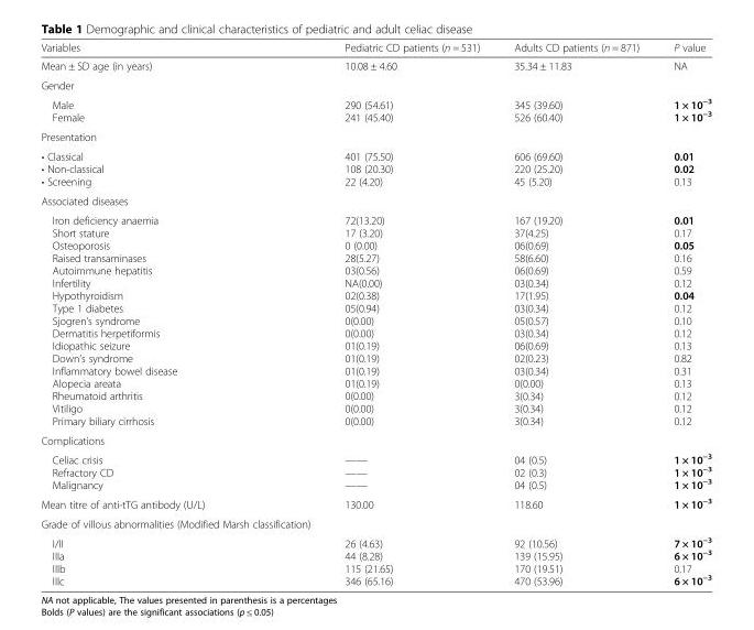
<table><thead><tr><td>Variables</td><td>Pediatric CD patients (n = 531)</td><td>Adults CD patients (n = 871)</td><td>P value</td></tr></thead><tbody><tr><td>Mean ± SD age (in years)</td><td>10.08 ± 4.60</td><td>35.34 ± 11.83</td><td>NA</td></tr><tr><td colspan="4">Gender</td></tr><tr><td>Male Female</td><td>290 (54.61) 241 (45.40)</td><td>345 (39.60) 526 (60.40)</td><td>1 × 10<sup>−3</sup> 1 × 10<sup>−3</sup></td></tr><tr><td colspan="4">Presentation</td></tr><tr><td>• Classical • Non-classical • Screening</td><td>401 (75.50) 108 (20.30) 22 (4.20)</td><td>606 (69.60) 220 (25.20) 45 (5.20)</td><td>0.01 0.02 0.13</td></tr><tr><td colspan="4">Associated diseases</td></tr><tr><td>Iron deficiency anaemia Short stature Osteoporosis Raised transaminases Autoimmune hepatitis Infertility Hypothyroidism Type 1 diabetes Sjogren’s syndrome Dermatitis herpetiformis Idiopathic seizure Down’s syndrome Inflammatory bowel disease Alopecia areata Rheumatoid arthritis Vitiligo Primary biliary cirrhosis</td><td>72(13.20) 17 (3.20) 0 (0.00) 28(5.27) 03(0.56) NA(0.00) 02(0.38) 05(0.94) 0(0.00) 0(0.00) 01(0.19) 01(0.19) 01(0.19) 01(0.19) 0(0.00) 0(0.00) 0(0.00)</td><td>167 (19.20) 37(4.25) 06(0.69) 58(6.60) 06(0.69) 03(0.34) 17(1.95) 03(0.34) 05(0.57) 03(0.34) 06(0.69) 02(0.23) 03(0.34) 0(0.00) 3(0.34) 3(0.34) 3(0.34)</td><td>0.01 0.17 0.05 0.16 0.59 0.12 0.04 0.12 0.10 0.12 0.13 0.82 0.31 0.13 0.12 0.12 0.12</td></tr><tr><td colspan="4">Complications</td></tr><tr><td>Celiac crisis Refractory CD Malignancy</td><td>—— —— ——</td><td>04 (0.5) 02 (0.3) 04 (0.5)</td><td>1 × 10<sup>−3</sup> 1 × 10<sup>−3</sup> 1 × 10<sup>−3</sup></td></tr><tr><td>Mean titre of anti-tTG antibody (U/L)</td><td>130.00</td><td>118.60</td><td>1 × 10<sup>−3</sup></td></tr><tr><td colspan="4">Grade of villous abnormalities (Modified Marsh classification)</td></tr><tr><td>I/II IIIa IIIb IIIc</td><td>26 (4.63) 44 (8.28) 115 (21.65) 346 (65.16)</td><td>92 (10.56) 139 (15.95) 170 (19.51) 470 (53.96)</td><td>7 × 10<sup>−3</sup> 6 × 10<sup>−3</sup> 0.17 6 × 10<sup>−3</sup></td></tr></tbody></table>